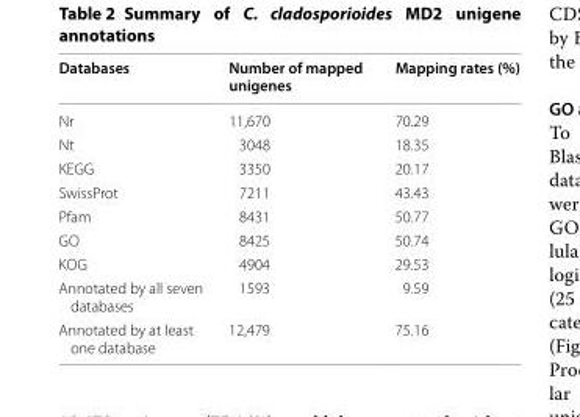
<table><thead><tr><td>Databases</td><td>Number of mapped unigenes</td><td>Mapping rates (%)</td></tr></thead><tbody><tr><td>Nr</td><td>11,670</td><td>70.29</td></tr><tr><td>Nt</td><td>3048</td><td>18.35</td></tr><tr><td>KEGG</td><td>3350</td><td>20.17</td></tr><tr><td>SwissProt</td><td>7211</td><td>43.43</td></tr><tr><td>Pfam</td><td>8431</td><td>50.77</td></tr><tr><td>GO</td><td>8425</td><td>50.74</td></tr><tr><td>KOG</td><td>4904</td><td>29.53</td></tr><tr><td>Annotated by all seven databases</td><td>1593</td><td>9.59</td></tr><tr><td>Annotated by at least one database</td><td>12,479</td><td>75.16</td></tr></tbody></table>